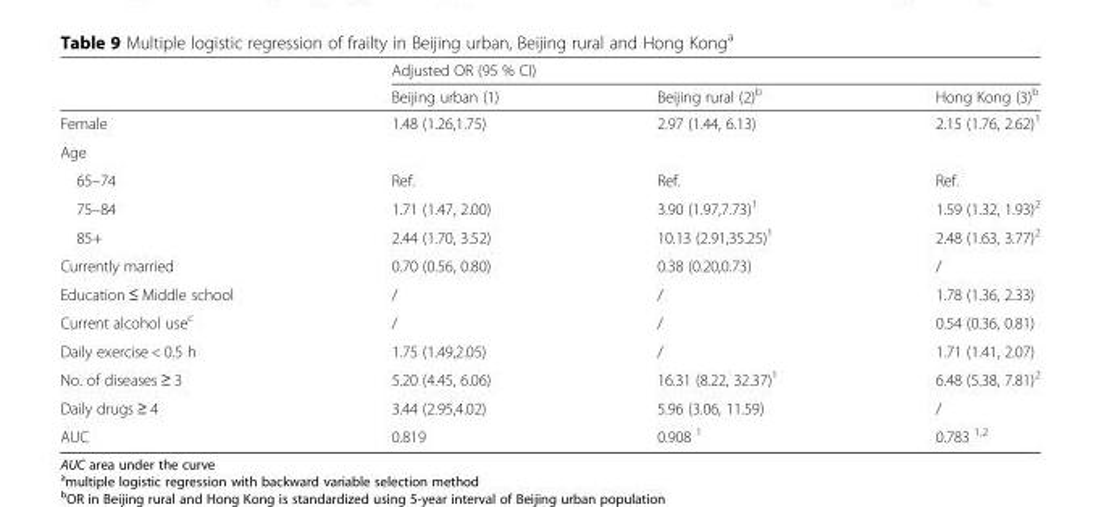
<table><thead><tr><td rowspan="2"></td><td colspan="3">Adjusted OR (95 % CI)</td></tr><tr><td>Beijing urban (1)</td><td>Beijing rural (2)<sup>b</sup></td><td>Hong Kong (3)<sup>b</sup></td></tr></thead><tbody><tr><td>Female</td><td>1.48 (1.26,1.75)</td><td>2.97 (1.44, 6.13)</td><td>2.15 (1.76, 2.62)<sup>1</sup></td></tr><tr><td colspan="4">Age</td></tr><tr><td>65–74</td><td>Ref.</td><td>Ref.</td><td>Ref.</td></tr><tr><td>75–84</td><td>1.71 (1.47, 2.00)</td><td>3.90 (1.97,7.73)<sup>1</sup></td><td>1.59 (1.32, 1.93)<sup>2</sup></td></tr><tr><td>85+</td><td>2.44 (1.70, 3.52)</td><td>10.13 (2.91,35.25)<sup>1</sup></td><td>2.48 (1.63, 3.77)<sup>2</sup></td></tr><tr><td>Currently married</td><td>0.70 (0.56, 0.80)</td><td>0.38 (0.20,0.73)</td><td>/</td></tr><tr><td>Education ≤ Middle school</td><td>/</td><td>/</td><td>1.78 (1.36, 2.33)</td></tr><tr><td>Current alcohol use<sup>c</sup></td><td>/</td><td>/</td><td>0.54 (0.36, 0.81)</td></tr><tr><td>Daily exercise &lt; 0.5 h</td><td>1.75 (1.49,2.05)</td><td>/</td><td>1.71 (1.41, 2.07)</td></tr><tr><td>No. of diseases ≥ 3</td><td>5.20 (4.45, 6.06)</td><td>16.31 (8.22, 32.37)<sup>1</sup></td><td>6.48 (5.38, 7.81)<sup>2</sup></td></tr><tr><td>Daily drugs ≥ 4</td><td>3.44 (2.95,4.02)</td><td>5.96 (3.06, 11.59)</td><td>/</td></tr><tr><td>AUC</td><td>0.819</td><td>0.908 <sup>1</sup></td><td>0.783 <sup>1,2</sup></td></tr></tbody></table>